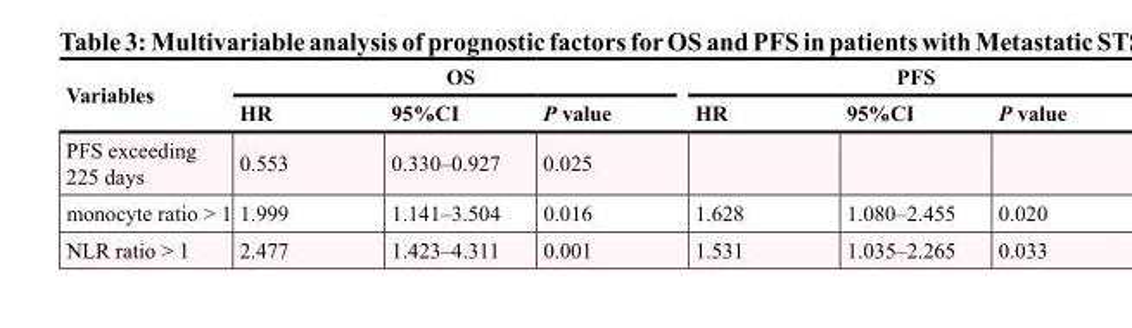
<table><thead><tr><td rowspan="2">Variables</td><td colspan="3">OS</td><td colspan="3">PFS</td></tr><tr><td>HR</td><td>95%CI</td><td>P value</td><td>HR</td><td>95%CI</td><td>P value</td></tr></thead><tbody><tr><td>PFS exceeding 225 days</td><td>0.553</td><td>0.330–0.927</td><td>0.025</td><td></td><td></td><td></td></tr><tr><td>monocyte ratio &gt; 1</td><td>1.999</td><td>1.141–3.504</td><td>0.016</td><td>1.628</td><td>1.080–2.455</td><td>0.020</td></tr><tr><td>NLR ratio &gt; 1</td><td>2.477</td><td>1.423–4.311</td><td>0.001</td><td>1.531</td><td>1.035–2.265</td><td>0.033</td></tr></tbody></table>